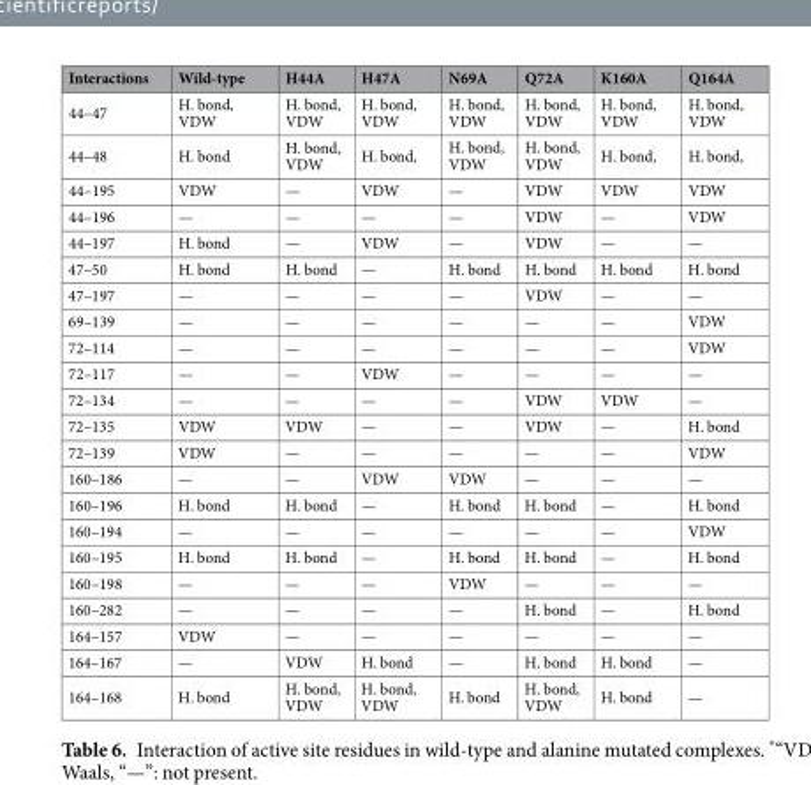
<table><thead><tr><td>Interactions</td><td>Wild-type</td><td>H44A</td><td>H47A</td><td>N69A</td><td>Q72A</td><td>K160A</td><td>Q164A</td></tr></thead><tbody><tr><td>44–47</td><td>H. bond, VDW</td><td>H. bond, VDW</td><td>H. bond, VDW</td><td>H. bond, VDW</td><td>H. bond, VDW</td><td>H. bond, VDW</td><td>H. bond, VDW</td></tr><tr><td>44–48</td><td>H. bond</td><td>H. bond, VDW</td><td>H. bond,</td><td>H. bond, VDW</td><td>H. bond, VDW</td><td>H. bond,</td><td>H. bond,</td></tr><tr><td>44–195</td><td>VDW</td><td>—</td><td>VDW</td><td>—</td><td>VDW</td><td>VDW</td><td>VDW</td></tr><tr><td>44–196</td><td>—</td><td>—</td><td>—</td><td>—</td><td>VDW</td><td>—</td><td>VDW</td></tr><tr><td>44–197</td><td>H. bond</td><td>—</td><td>VDW</td><td>—</td><td>VDW</td><td>—</td><td>—</td></tr><tr><td>47–50</td><td>H. bond</td><td>H. bond</td><td>—</td><td>H. bond</td><td>H. bond</td><td>H. bond</td><td>H. bond</td></tr><tr><td>47–197</td><td>—</td><td>—</td><td>—</td><td>—</td><td>VDW</td><td>—</td><td>—</td></tr><tr><td>69–139</td><td>—</td><td>—</td><td>—</td><td>—</td><td>—</td><td>—</td><td>VDW</td></tr><tr><td>72–114</td><td>—</td><td>—</td><td>—</td><td>—</td><td>—</td><td>—</td><td>VDW</td></tr><tr><td>72–117</td><td>—</td><td>—</td><td>VDW</td><td>—</td><td>—</td><td>—</td><td>—</td></tr><tr><td>72–134</td><td>—</td><td>—</td><td>—</td><td>—</td><td>VDW</td><td>VDW</td><td>—</td></tr><tr><td>72–135</td><td>VDW</td><td>VDW</td><td>—</td><td>—</td><td>VDW</td><td>—</td><td>H. bond</td></tr><tr><td>72–139</td><td>VDW</td><td>—</td><td>—</td><td>—</td><td>—</td><td>—</td><td>VDW</td></tr><tr><td>160–186</td><td>—</td><td>—</td><td>VDW</td><td>VDW</td><td>—</td><td>—</td><td>—</td></tr><tr><td>160–196</td><td>H. bond</td><td>H. bond</td><td>—</td><td>H. bond</td><td>H. bond</td><td>—</td><td>H. bond</td></tr><tr><td>160–194</td><td>—</td><td>—</td><td>—</td><td>—</td><td>—</td><td>—</td><td>VDW</td></tr><tr><td>160–195</td><td>H. bond</td><td>H. bond</td><td>—</td><td>H. bond</td><td>H. bond</td><td>—</td><td>H. bond</td></tr><tr><td>160–198</td><td>—</td><td>—</td><td>—</td><td>VDW</td><td>—</td><td>—</td><td>—</td></tr><tr><td>160–282</td><td>—</td><td>—</td><td>—</td><td>—</td><td>H. bond</td><td>—</td><td>H. bond</td></tr><tr><td>164–157</td><td>VDW</td><td>—</td><td>—</td><td>—</td><td>—</td><td>—</td><td>—</td></tr><tr><td>164–167</td><td>—</td><td>VDW</td><td>H. bond</td><td>—</td><td>H. bond</td><td>H. bond</td><td>—</td></tr><tr><td>164–168</td><td>H. bond</td><td>H. bond, VDW</td><td>H. bond, VDW</td><td>H. bond</td><td>H. bond, VDW</td><td>H. bond</td><td>—</td></tr></tbody></table>